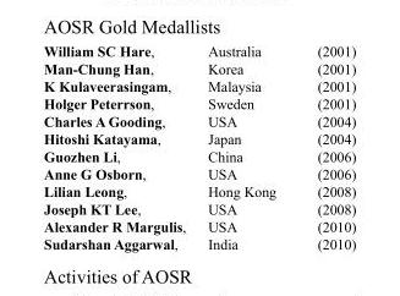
<table><tbody><tr><td>William SC Hare,</td><td>Australia</td><td>(2001)</td></tr><tr><td>Man-Chung Han,</td><td>Korea</td><td>(2001)</td></tr><tr><td>K Kulaveerasingam,</td><td>Malaysia</td><td>(2001)</td></tr><tr><td>Holger Peterrson,</td><td>Sweden</td><td>(2001)</td></tr><tr><td>Charles A Gooding,</td><td>USA</td><td>(2004)</td></tr><tr><td>Hitoshi Katayama,</td><td>Japan</td><td>(2004)</td></tr><tr><td>Guozhen Li,</td><td>China</td><td>(2006)</td></tr><tr><td>Anne G Osborn,</td><td>USA</td><td>(2006)</td></tr><tr><td>Lilian Leong,</td><td>Hong Kong</td><td>(2008)</td></tr><tr><td>Joseph KT Lee,</td><td>USA</td><td>(2008)</td></tr><tr><td>Alexander R Margulis,</td><td>USA</td><td>(2010)</td></tr><tr><td>Sudarshan Aggarwal,</td><td>India</td><td>(2010)</td></tr></tbody></table>